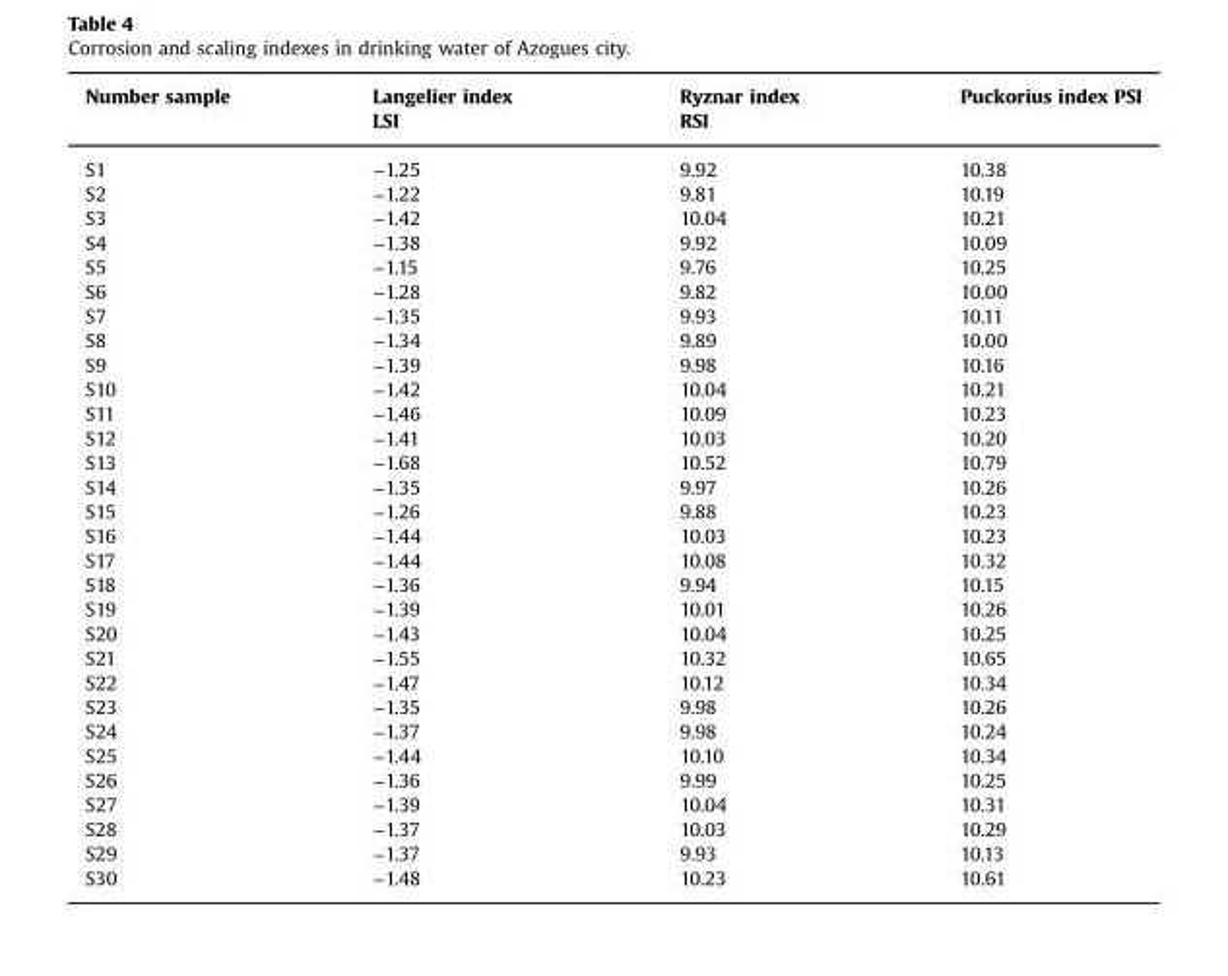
<table><thead><tr><td>Number sample</td><td>Langelier index LSI</td><td>Ryznar index RSI</td><td>Puckorius index PSI</td></tr></thead><tbody><tr><td>S1</td><td>−1.25</td><td>9.92</td><td>10.38</td></tr><tr><td>S2</td><td>−1.22</td><td>9.81</td><td>10.19</td></tr><tr><td>S3</td><td>−1.42</td><td>10.04</td><td>10.21</td></tr><tr><td>S4</td><td>−1.38</td><td>9.92</td><td>10.09</td></tr><tr><td>S5</td><td>−1.15</td><td>9.76</td><td>10.25</td></tr><tr><td>S6</td><td>−1.28</td><td>9.82</td><td>10.00</td></tr><tr><td>S7</td><td>−1.35</td><td>9.93</td><td>10.11</td></tr><tr><td>S8</td><td>−1.34</td><td>9.89</td><td>10.00</td></tr><tr><td>S9</td><td>−1.39</td><td>9.98</td><td>10.16</td></tr><tr><td>S10</td><td>−1.42</td><td>10.04</td><td>10.21</td></tr><tr><td>S11</td><td>−1.46</td><td>10.09</td><td>10.23</td></tr><tr><td>S12</td><td>−1.41</td><td>10.03</td><td>10.20</td></tr><tr><td>S13</td><td>−1.68</td><td>10.52</td><td>10.79</td></tr><tr><td>S14</td><td>−1.35</td><td>9.97</td><td>10.26</td></tr><tr><td>S15</td><td>−1.26</td><td>9.88</td><td>10.23</td></tr><tr><td>S16</td><td>−1.44</td><td>10.03</td><td>10.23</td></tr><tr><td>S17</td><td>−1.44</td><td>10.08</td><td>10.32</td></tr><tr><td>S18</td><td>−1.36</td><td>9.94</td><td>10.15</td></tr><tr><td>S19</td><td>−1.39</td><td>10.01</td><td>10.26</td></tr><tr><td>S20</td><td>−1.43</td><td>10.04</td><td>10.25</td></tr><tr><td>S21</td><td>−1.55</td><td>10.32</td><td>10.65</td></tr><tr><td>S22</td><td>−1.47</td><td>10.12</td><td>10.34</td></tr><tr><td>S23</td><td>−1.35</td><td>9.98</td><td>10.26</td></tr><tr><td>S24</td><td>−1.37</td><td>9.98</td><td>10.24</td></tr><tr><td>S25</td><td>−1.44</td><td>10.10</td><td>10.34</td></tr><tr><td>S26</td><td>−1.36</td><td>9.99</td><td>10.25</td></tr><tr><td>S27</td><td>−1.39</td><td>10.04</td><td>10.31</td></tr><tr><td>S28</td><td>−1.37</td><td>10.03</td><td>10.29</td></tr><tr><td>S29</td><td>−1.37</td><td>9.93</td><td>10.13</td></tr><tr><td>S30</td><td>−1.48</td><td>10.23</td><td>10.61</td></tr></tbody></table>